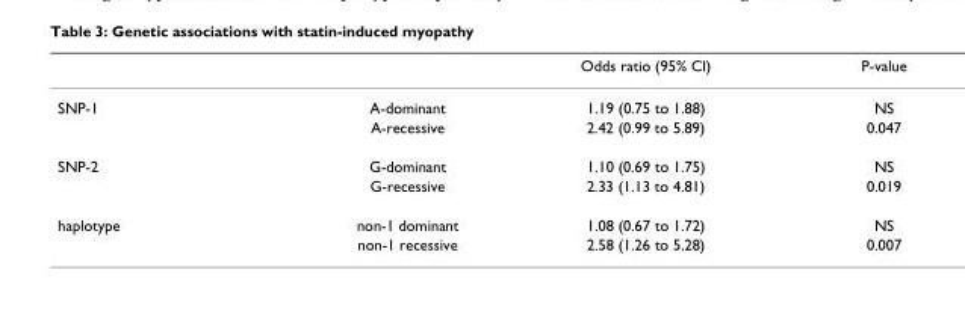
<table><thead><tr><td></td><td></td><td>Odds ratio (95% CI)</td><td>P-value</td></tr></thead><tbody><tr><td rowspan="2">SNP-1</td><td>A-dominant</td><td>1.19 (0.75 to 1.88)</td><td>NS</td></tr><tr><td>A-recessive</td><td>2.42 (0.99 to 5.89)</td><td>0.047</td></tr><tr><td rowspan="2">SNP-2</td><td>G-dominant</td><td>1.10 (0.69 to 1.75)</td><td>NS</td></tr><tr><td>G-recessive</td><td>2.33 (1.13 to 4.81)</td><td>0.019</td></tr><tr><td rowspan="2">haplotype</td><td>non-1 dominant</td><td>1.08 (0.67 to 1.72)</td><td>NS</td></tr><tr><td>non-1 recessive</td><td>2.58 (1.26 to 5.28)</td><td>0.007</td></tr></tbody></table>